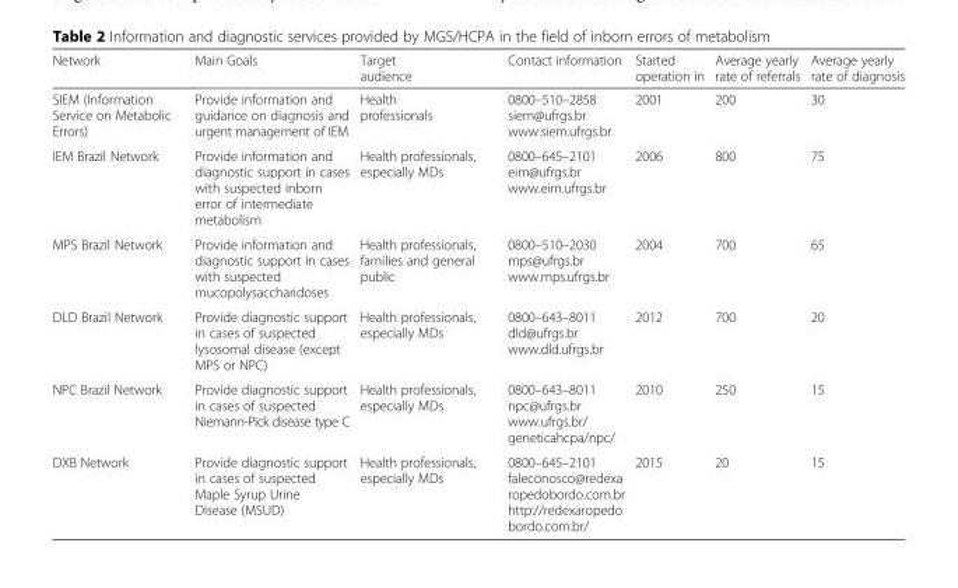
<table><thead><tr><td>Network</td><td>Main Goals</td><td>Target audience</td><td>Contact information</td><td>Started operation in</td><td>Average yearly rate of referrals</td><td>Average yearly rate of diagnosis</td></tr></thead><tbody><tr><td>SIEM (Information Service on Metabolic Errors)</td><td>Provide information and guidance on diagnosis and urgent management of IEM</td><td>Health professionals</td><td>0800–510–2858 siem@ufrgs.br www.siem.ufrgs.br</td><td>2001</td><td>200</td><td>30</td></tr><tr><td>IEM Brazil Network</td><td>Provide information and diagnostic support in cases with suspected inborn error of intermediate metabolism</td><td>Health professionals, especially MDs</td><td>0800–645–2101 eim@ufrgs.br www.eim.ufrgs.br</td><td>2006</td><td>800</td><td>75</td></tr><tr><td>MPS Brazil Network</td><td>Provide information and diagnostic support in cases with suspected mucopolysaccharidoses</td><td>Health professionals, families and general public</td><td>0800–510–2030 mps@ufrgs.br www.mps.ufrgs.br</td><td>2004</td><td>700</td><td>65</td></tr><tr><td>DLD Brazil Network</td><td>Provide diagnostic support in cases of suspected lysosomal disease (except MPS or NPC)</td><td>Health professionals, especially MDs</td><td>0800–643–8011 dld@ufrgs.br www.dld.ufrgs.br</td><td>2012</td><td>700</td><td>20</td></tr><tr><td>NPC Brazil Network</td><td>Provide diagnostic support in cases of suspected Niemann-Pick disease type C</td><td>Health professionals, especially MDs</td><td>0800–643–8011 npc@ufrgs.br www.ufrgs.br/ geneticahcpa/npc/</td><td>2010</td><td>250</td><td>15</td></tr><tr><td>DXB Network</td><td>Provide diagnostic support in cases of suspected Maple Syrup Urine Disease (MSUD)</td><td>Health professionals, especially MDs</td><td>0800–645–2101 faleconosco@redexa ropedobordo.com.br http://redexaropedo bordo.com.br/</td><td>2015</td><td>20</td><td>15</td></tr></tbody></table>